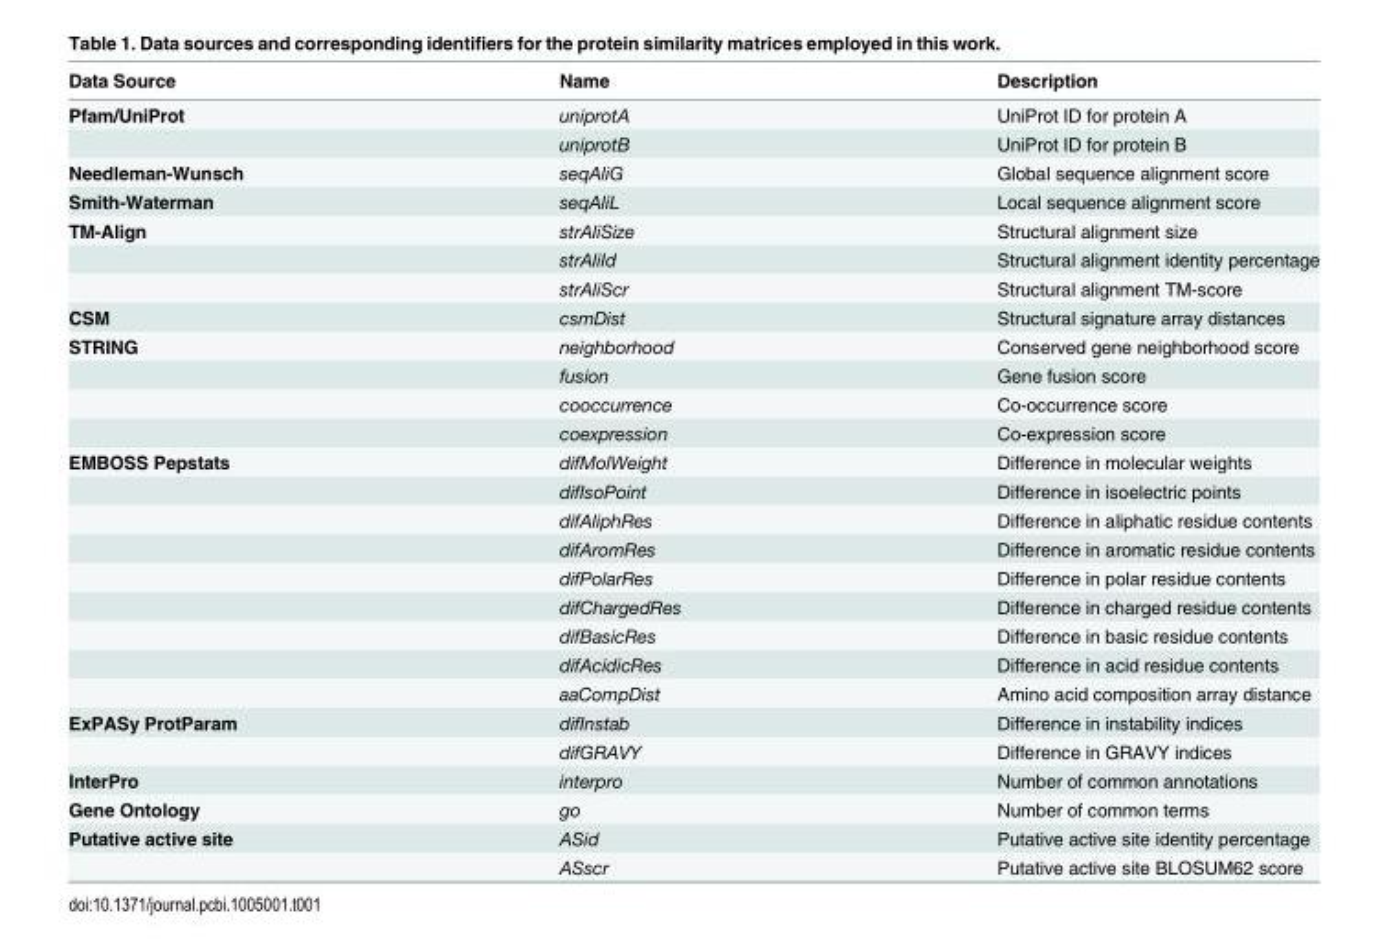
<table><thead><tr><td>Data Source</td><td>Name</td><td>Description</td></tr></thead><tbody><tr><td rowspan="2">Pfam/UniProt</td><td>uniprotA</td><td>UniProt ID for protein A</td></tr><tr><td>uniprotB</td><td>UniProt ID for protein B</td></tr><tr><td>Needleman-Wunsch</td><td>seqAliG</td><td>Global sequence alignment score</td></tr><tr><td>Smith-Waterman</td><td>seqAliL</td><td>Local sequence alignment score</td></tr><tr><td rowspan="3">TM-Align</td><td>strAliSize</td><td>Structural alignment size</td></tr><tr><td>strAliId</td><td>Structural alignment identity percentage</td></tr><tr><td>strAliScr</td><td>Structural alignment TM-score</td></tr><tr><td>CSM</td><td>csmDist</td><td>Structural signature array distances</td></tr><tr><td rowspan="4">STRING</td><td>neighborhood</td><td>Conserved gene neighborhood score</td></tr><tr><td>fusion</td><td>Gene fusion score</td></tr><tr><td>cooccurrence</td><td>Co-occurrence score</td></tr><tr><td>coexpression</td><td>Co-expression score</td></tr><tr><td rowspan="9">EMBOSS Pepstats</td><td>difMolWeight</td><td>Difference in molecular weights</td></tr><tr><td>difIsoPoint</td><td>Difference in isoelectric points</td></tr><tr><td>difAliphRes</td><td>Difference in aliphatic residue contents</td></tr><tr><td>difAromRes</td><td>Difference in aromatic residue contents</td></tr><tr><td>difPolarRes</td><td>Difference in polar residue contents</td></tr><tr><td>difChargedRes</td><td>Difference in charged residue contents</td></tr><tr><td>difBasicRes</td><td>Difference in basic residue contents</td></tr><tr><td>difAcidicRes</td><td>Difference in acid residue contents</td></tr><tr><td>aaCompDist</td><td>Amino acid composition array distance</td></tr><tr><td rowspan="2">ExPASy ProtParam</td><td>difInstab</td><td>Difference in instability indices</td></tr><tr><td>difGRAVY</td><td>Difference in GRAVY indices</td></tr><tr><td>InterPro</td><td>interpro</td><td>Number of common annotations</td></tr><tr><td>Gene Ontology</td><td>go</td><td>Number of common terms</td></tr><tr><td rowspan="2">Putative active site</td><td>ASid</td><td>Putative active site identity percentage</td></tr><tr><td>ASscr</td><td>Putative active site BLOSUM62 score</td></tr></tbody></table>